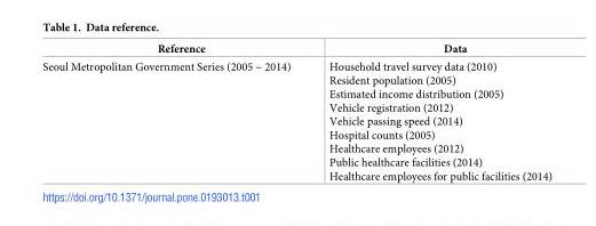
<table><thead><tr><td>Reference</td><td>Data</td></tr></thead><tbody><tr><td>Seoul Metropolitan Government Series (2005 ~ 2014)</td><td>Household travel survey data (2010) Resident population (2005) Estimated income distribution (2005) Vehicle registration (2012) Vehicle passing speed (2014) Hospital counts (2005) Healthcare employees (2012) Public healthcare facilities (2014) Healthcare employees for public facilities (2014)</td></tr></tbody></table>